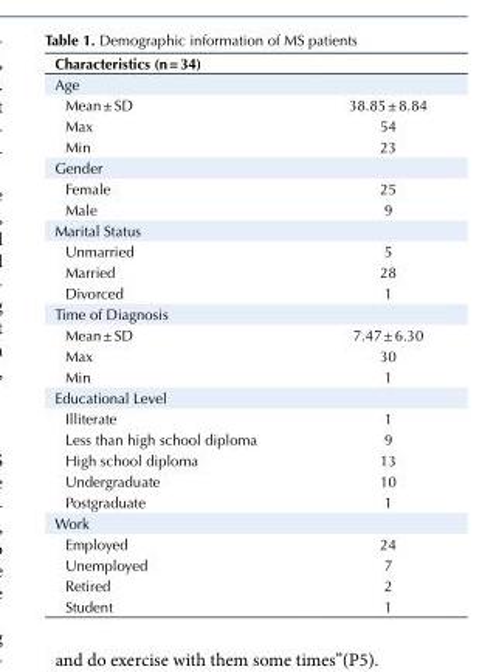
<table><tbody><tr><td colspan="2">Characteristics (n = 34)</td></tr><tr><td colspan="2">Age</td></tr><tr><td>Mean ± SD</td><td>38.85 ± 8.84</td></tr><tr><td>Max</td><td>54</td></tr><tr><td>Min</td><td>23</td></tr><tr><td colspan="2">Gender</td></tr><tr><td>Female</td><td>25</td></tr><tr><td>Male</td><td>9</td></tr><tr><td colspan="2">Marital Status</td></tr><tr><td>Unmarried</td><td>5</td></tr><tr><td>Married</td><td>28</td></tr><tr><td>Divorced</td><td>1</td></tr><tr><td colspan="2">Time of Diagnosis</td></tr><tr><td>Mean ± SD</td><td>7.47 ± 6.30</td></tr><tr><td>Max</td><td>30</td></tr><tr><td>Min</td><td>1</td></tr><tr><td colspan="2">Educational Level</td></tr><tr><td>Illiterate</td><td>1</td></tr><tr><td>Less than high school diploma</td><td>9</td></tr><tr><td>High school diploma</td><td>13</td></tr><tr><td>Undergraduate</td><td>10</td></tr><tr><td>Postgraduate</td><td>1</td></tr><tr><td colspan="2">Work</td></tr><tr><td>Employed</td><td>24</td></tr><tr><td>Unemployed</td><td>7</td></tr><tr><td>Retired</td><td>2</td></tr><tr><td>Student</td><td>1</td></tr></tbody></table>